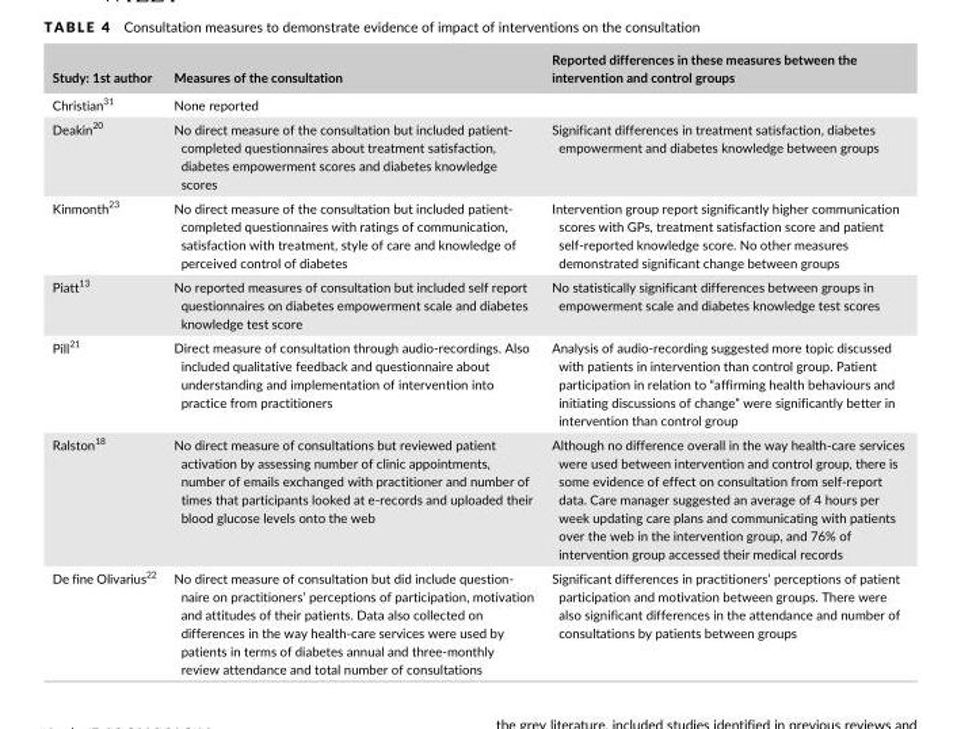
<table><thead><tr><td>Study: 1st author</td><td>Measures of the consultation</td><td>Reported differences in these measures between the intervention and control groups</td></tr></thead><tbody><tr><td>Christian<sup>31</sup></td><td>None reported</td><td></td></tr><tr><td>Deakin20</td><td>No direct measure of the consultation but included patient- completed questionnaires about treatment satisfaction, diabetes empowerment scores and diabetes knowledge scores</td><td>Significant differences in treatment satisfaction, diabetes empowerment and diabetes knowledge between groups</td></tr><tr><td>Kinmonth<sup>23</sup></td><td>No direct measure of the consultation but included patient- completed questionnaires with ratings of communication, satisfaction with treatment, style of care and knowledge of perceived control of diabetes</td><td>Intervention group report significantly higher communication scores with GPs, treatment satisfaction score and patient self- reported knowledge score. No other measures demonstrated significant change between groups</td></tr><tr><td>Piatt<sup>13</sup></td><td>No reported measures of consultation but included self report questionnaires on diabetes empowerment scale and diabetes knowledge test score</td><td>No statistically significant differences between groups in empowerment scale and diabetes knowledge test scores</td></tr><tr><td>Pill<sup>21</sup></td><td>Direct measure of consultation through audio- recordings. Also included qualitative feedback and questionnaire about understanding and implementation of intervention into practice from practitioners</td><td>Analysis of audio- recording suggested more topic discussed with patients in intervention than control group. Patient participation in relation to “affirming health behaviours and initiating discussions of change” were significantly better in intervention than control group</td></tr><tr><td>Ralston<sup>18</sup></td><td>No direct measure of consultations but reviewed patient activation by assessing number of clinic appointments, number of emails exchanged with practitioner and number of times that participants looked at e- records and uploaded their blood glucose levels onto the web</td><td>Although no difference overall in the way health- care services were used between intervention and control group, there is some evidence of effect on consultation from self- report data. Care manager suggested an average of 4 hours per week updating care plans and communicating with patients over the web in the intervention group, and 76% of intervention group accessed their medical records</td></tr><tr><td>De fine Olivarius<sup>22</sup></td><td>No direct measure of consultation but did include question- naire on practitioners’ perceptions of participation, motivation and attitudes of their patients. Data also collected on differences in the way health- care services were used by patients in terms of diabetes annual and three- monthly review attendance and total number of consultations</td><td>Significant differences in practitioners’ perceptions of patient participation and motivation between groups. There were also significant differences in the attendance and number of consultations by patients between groups</td></tr></tbody></table>